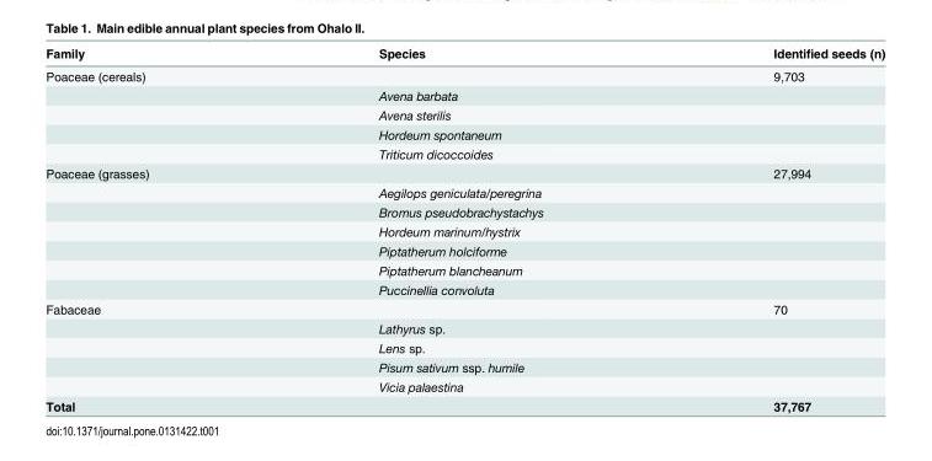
<table><thead><tr><td>Family</td><td>Species</td><td>Identified seeds (n)</td></tr></thead><tbody><tr><td rowspan="5">Poaceae (cereals)</td><td></td><td>9,703</td></tr><tr><td>Avena barbata</td><td></td></tr><tr><td>Avena sterilis</td><td></td></tr><tr><td>Hordeum spontaneum</td><td></td></tr><tr><td>Triticum dicoccoides</td><td></td></tr><tr><td rowspan="7">Poaceae (grasses)</td><td></td><td>27,994</td></tr><tr><td>Aegilops geniculata/peregrina</td><td></td></tr><tr><td>Bromus pseudobrachystachys</td><td></td></tr><tr><td>Hordeum marinum/hystrix</td><td></td></tr><tr><td>Piptatherum holciforme</td><td></td></tr><tr><td>Piptatherum blancheanum</td><td></td></tr><tr><td>Puccinellia convoluta</td><td></td></tr><tr><td rowspan="5">Fabaceae</td><td></td><td>70</td></tr><tr><td>Lathyrus sp.</td><td></td></tr><tr><td>Lens sp.</td><td></td></tr><tr><td>Pisum sativum ssp. humile</td><td></td></tr><tr><td>Vicia palaestina</td><td></td></tr><tr><td>Total</td><td></td><td>37,767</td></tr></tbody></table>